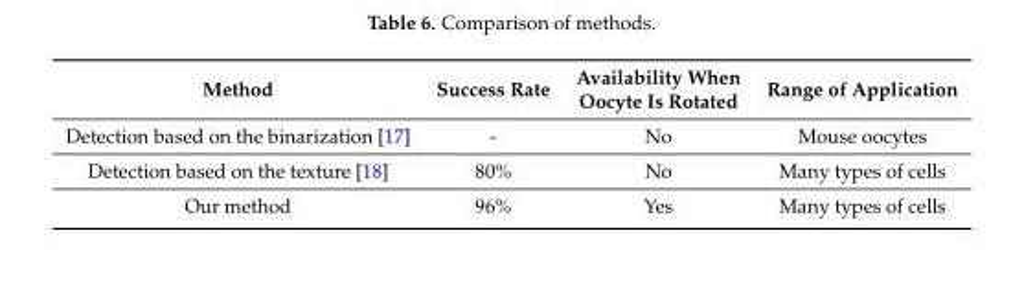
<table><thead><tr><td>Method</td><td>Success Rate</td><td>Availability When Oocyte Is Rotated</td><td>Range of Application</td></tr></thead><tbody><tr><td>Detection based on the binarization [17]</td><td>-</td><td>No</td><td>Mouse oocytes</td></tr><tr><td>Detection based on the texture [18]</td><td>80%</td><td>No</td><td>Many types of cells</td></tr><tr><td>Our method</td><td>96%</td><td>Yes</td><td>Many types of cells</td></tr></tbody></table>